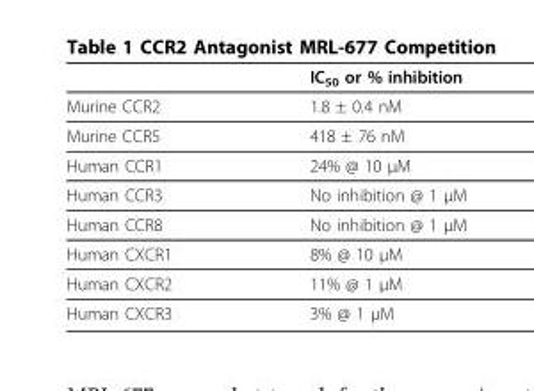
<table><thead><tr><td></td><td>IC<sub>50</sub> or % inhibition</td></tr></thead><tbody><tr><td>Murine CCR2</td><td>1.8 ± 0.4 nM</td></tr><tr><td>Murine CCR5</td><td>418 ± 76 nM</td></tr><tr><td>Human CCR1</td><td>24% @ 10 μM</td></tr><tr><td>Human CCR3</td><td>No inhibition @ 1 μM</td></tr><tr><td>Human CCR8</td><td>No inhibition @ 1 μM</td></tr><tr><td>Human CXCR1</td><td>8% @ 10 μM</td></tr><tr><td>Human CXCR2</td><td>11% @ 1 μM</td></tr><tr><td>Human CXCR3</td><td>3% @ 1 μM</td></tr></tbody></table>